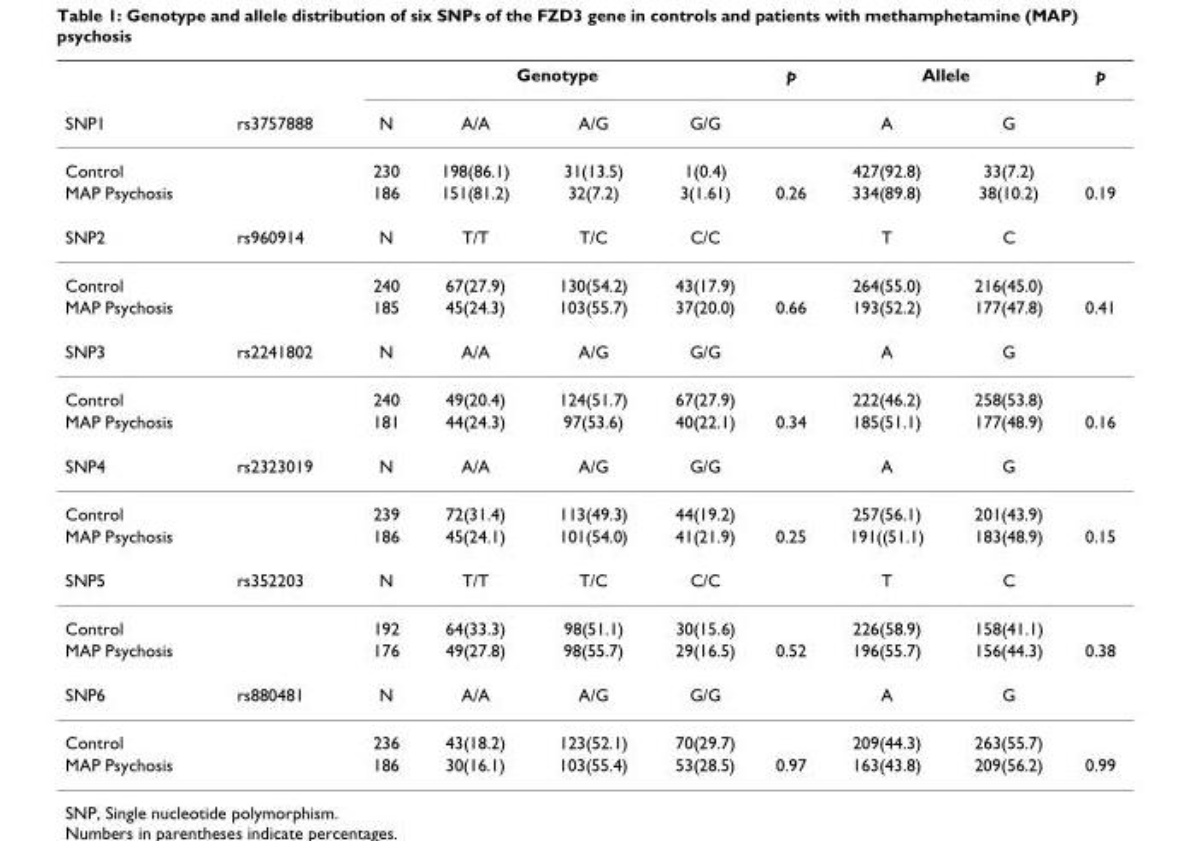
<table><thead><tr><td rowspan="2">SNP1</td><td rowspan="2">rs3757888</td><td colspan="4">Genotype</td><td rowspan="2">p</td><td colspan="2">Allele</td><td rowspan="2">p</td></tr><tr><td>N</td><td>A/A</td><td>A/G</td><td>G/G</td><td>A</td><td>G</td></tr></thead><tbody><tr><td>Control</td><td></td><td>230</td><td>198(86.1)</td><td>31(13.5)</td><td>1(0.4)</td><td></td><td>427(92.8)</td><td>33(7.2)</td><td></td></tr><tr><td>MAP Psychosis</td><td></td><td>186</td><td>151(81.2)</td><td>32(7.2)</td><td>3(1.61)</td><td>0.26</td><td>334(89.8)</td><td>38(10.2)</td><td>0.19</td></tr><tr><td>SNP2</td><td>rs960914</td><td>N</td><td>T/T</td><td>T/C</td><td>C/C</td><td></td><td>T</td><td>C</td><td></td></tr><tr><td>Control</td><td></td><td>240</td><td>67(27.9)</td><td>130(54.2)</td><td>43(17.9)</td><td></td><td>264(55.0)</td><td>216(45.0)</td><td></td></tr><tr><td>MAP Psychosis</td><td></td><td>185</td><td>45(24.3)</td><td>103(55.7)</td><td>37(20.0)</td><td>0.66</td><td>193(52.2)</td><td>177(47.8)</td><td>0.41</td></tr><tr><td>SNP3</td><td>rs2241802</td><td>N</td><td>A/A</td><td>A/G</td><td>G/G</td><td></td><td>A</td><td>G</td><td></td></tr><tr><td>Control</td><td></td><td>240</td><td>49(20.4)</td><td>124(51.7)</td><td>67(27.9)</td><td></td><td>222(46.2)</td><td>258(53.8)</td><td></td></tr><tr><td>MAP Psychosis</td><td></td><td>181</td><td>44(24.3)</td><td>97(53.6)</td><td>40(22.1)</td><td>0.34</td><td>185(51.1)</td><td>177(48.9)</td><td>0.16</td></tr><tr><td>SNP4</td><td>rs2323019</td><td>N</td><td>A/A</td><td>A/G</td><td>G/G</td><td></td><td>A</td><td>G</td><td></td></tr><tr><td>Control</td><td></td><td>239</td><td>72(31.4)</td><td>113(49.3)</td><td>44(19.2)</td><td></td><td>257(56.1)</td><td>201(43.9)</td><td></td></tr><tr><td>MAP Psychosis</td><td></td><td>186</td><td>45(24.1)</td><td>101(54.0)</td><td>41(21.9)</td><td>0.25</td><td>191((51.1)</td><td>183(48.9)</td><td>0.15</td></tr><tr><td>SNP5</td><td>rs352203</td><td>N</td><td>T/T</td><td>T/C</td><td>C/C</td><td></td><td>T</td><td>C</td><td></td></tr><tr><td>Control</td><td></td><td>192</td><td>64(33.3)</td><td>98(51.1)</td><td>30(15.6)</td><td></td><td>226(58.9)</td><td>158(41.1)</td><td></td></tr><tr><td>MAP Psychosis</td><td></td><td>176</td><td>49(27.8)</td><td>98(55.7)</td><td>29(16.5)</td><td>0.52</td><td>196(55.7)</td><td>156(44.3)</td><td>0.38</td></tr><tr><td>SNP6</td><td>rs880481</td><td>N</td><td>A/A</td><td>A/G</td><td>G/G</td><td></td><td>A</td><td>G</td><td></td></tr><tr><td>Control</td><td></td><td>236</td><td>43(18.2)</td><td>123(52.1)</td><td>70(29.7)</td><td></td><td>209(44.3)</td><td>263(55.7)</td><td></td></tr><tr><td>MAP Psychosis</td><td></td><td>186</td><td>30(16.1)</td><td>103(55.4)</td><td>53(28.5)</td><td>0.97</td><td>163(43.8)</td><td>209(56.2)</td><td>0.99</td></tr></tbody></table>